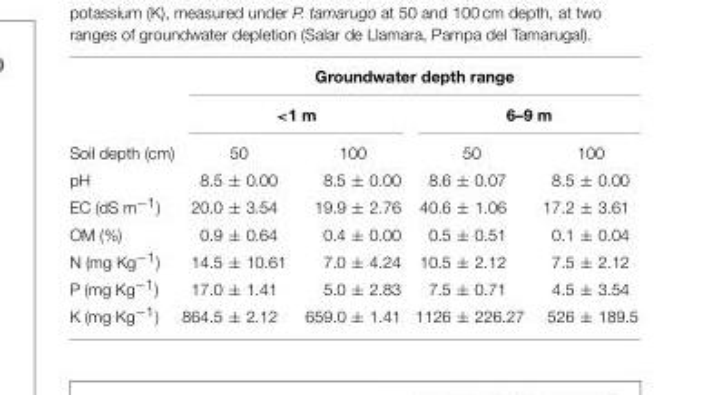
<table><thead><tr><td rowspan="3">Soil depth (cm)</td><td colspan="4">Groundwater depth range</td></tr><tr><td colspan="2">&lt;1 m</td><td colspan="2">6–9 m</td></tr><tr><td>50</td><td>100</td><td>50</td><td>100</td></tr></thead><tbody><tr><td>pH</td><td>8.5 ± 0.00</td><td>8.5 ± 0.00</td><td>8.6 ± 0.07</td><td>8.5 ± 0.00</td></tr><tr><td>EC (dS m<sup>−1</sup>)</td><td>20.0 ± 3.54</td><td>19.9 ± 2.76</td><td>40.6 ± 1.06</td><td>17.2 ± 3.61</td></tr><tr><td>OM (%)</td><td>0.9 ± 0.64</td><td>0.4 ± 0.00</td><td>0.5 ± 0.51</td><td>0.1 ± 0.04</td></tr><tr><td>N (mg Kg<sup>−1</sup>)</td><td>14.5 ± 10.61</td><td>7.0 ± 4.24</td><td>10.5 ± 2.12</td><td>7.5 ± 2.12</td></tr><tr><td>P (mg Kg<sup>−1</sup>)</td><td>17.0 ± 1.41</td><td>5.0 ± 2.83</td><td>7.5 ± 0.71</td><td>4.5 ± 3.54</td></tr><tr><td>K (mg Kg<sup>−1</sup>)</td><td>864.5 ± 2.12</td><td>659.0 ± 1.41</td><td>1126 ± 226.27</td><td>526 ± 189.5</td></tr></tbody></table>